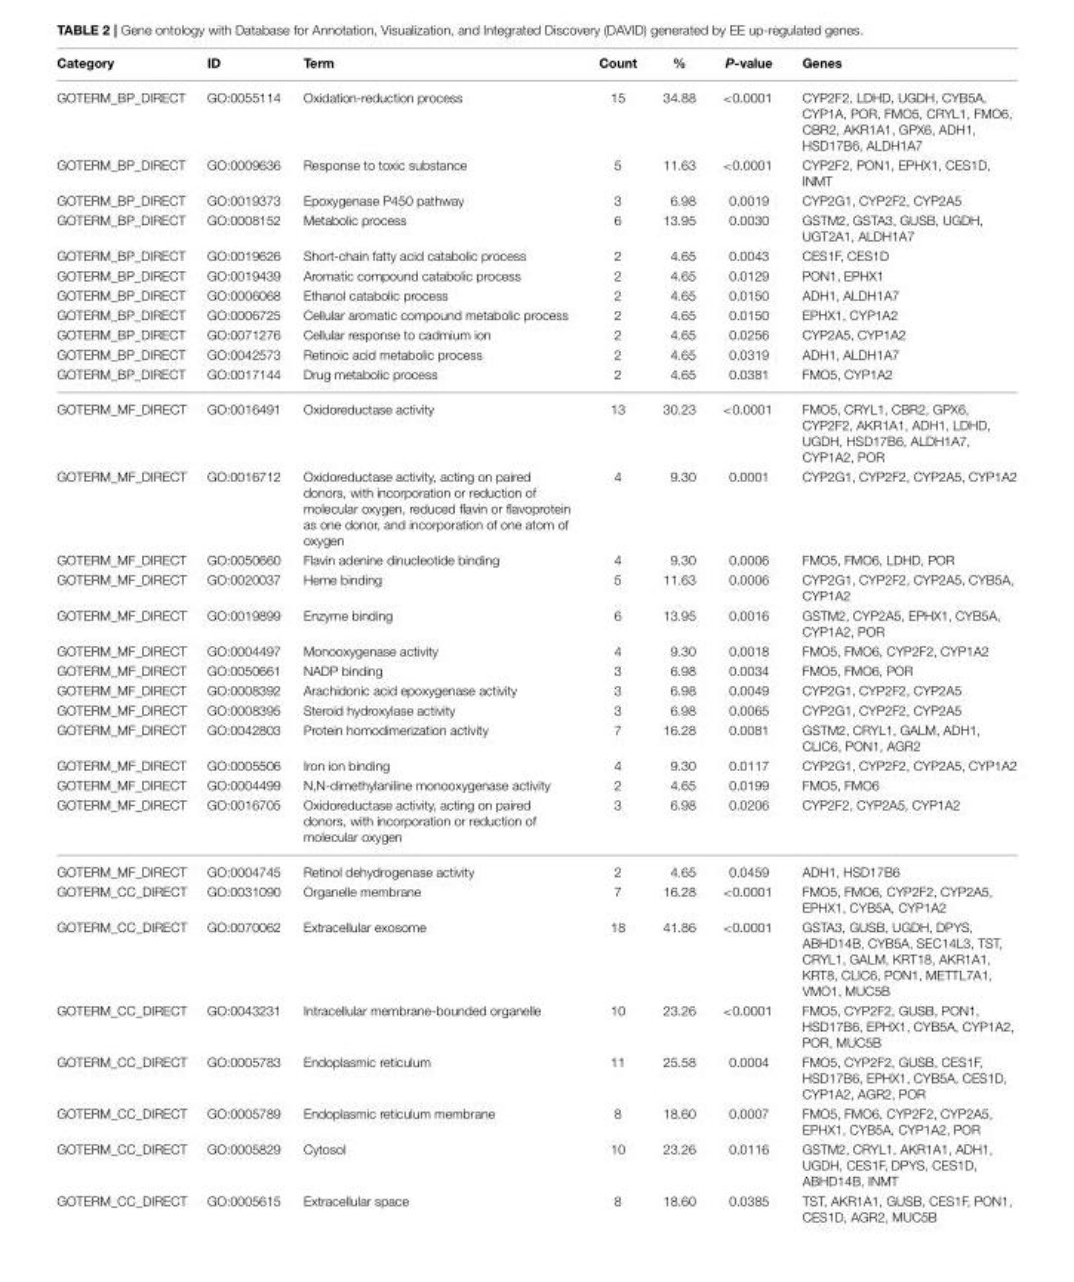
<table><thead><tr><td>Category</td><td>ID</td><td>Term</td><td>Count</td><td>%</td><td>P-value</td><td>Genes</td></tr></thead><tbody><tr><td>GOTERM_BP_DIRECT</td><td>GO:0055114</td><td>Oxidation-reduction process</td><td>15</td><td>34.88</td><td>&lt;0.0001</td><td>CYP2F2, LDHD, UGDH, CYB5A, CYP1A, POR, FMO5, CRYL1, FMO6, CBR2, AKR1A1, GPX6, ADH1, HSD17B6, ALDH1A7</td></tr><tr><td>GOTERM_BP_DIRECT</td><td>GO:0009636</td><td>Response to toxic substance</td><td>5</td><td>11.63</td><td>&lt;0.0001</td><td>CYP2F2, PON1, EPHX1, CES1D, INMT</td></tr><tr><td>GOTERM_BP_DIRECT</td><td>GO:0019373</td><td>Epoxygenase P450 pathway</td><td>3</td><td>6.98</td><td>0.0019</td><td>CYP2G1, CYP2F2, CYP2A5</td></tr><tr><td>GOTERM_BP_DIRECT</td><td>GO:0008152</td><td>Metabolic process</td><td>6</td><td>13.95</td><td>0.0030</td><td>GSTM2, GSTA3, GUSB, UGDH, UGT2A1, ALDH1A7</td></tr><tr><td>GOTERM_BP_DIRECT</td><td>GO:0019626</td><td>Short-chain fatty acid catabolic process</td><td>2</td><td>4.65</td><td>0.0043</td><td>CES1F, CES1D</td></tr><tr><td>GOTERM_BP_DIRECT</td><td>GO:0019439</td><td>Aromatic compound catabolic process</td><td>2</td><td>4.65</td><td>0.0129</td><td>PON1, EPHX1</td></tr><tr><td>GOTERM_BP_DIRECT</td><td>GO:0006068</td><td>Ethanol catabolic process</td><td>2</td><td>4.65</td><td>0.0150</td><td>ADH1, ALDH1A7</td></tr><tr><td>GOTERM_BP_DIRECT</td><td>GO:0006725</td><td>Cellular aromatic compound metabolic process</td><td>2</td><td>4.65</td><td>0.0150</td><td>EPHX1, CYP1A2</td></tr><tr><td>GOTERM_BP_DIRECT</td><td>GO:0071276</td><td>Cellular response to cadmium ion</td><td>2</td><td>4.65</td><td>0.0256</td><td>CYP2A5, CYP1A2</td></tr><tr><td>GOTERM_BP_DIRECT</td><td>GO:0042573</td><td>Retinoic acid metabolic process</td><td>2</td><td>4.65</td><td>0.0319</td><td>ADH1, ALDH1A7</td></tr><tr><td>GOTERM_BP_DIRECT</td><td>GO:0017144</td><td>Drug metabolic process</td><td>2</td><td>4.65</td><td>0.0381</td><td>FMO5, CYP1A2</td></tr><tr><td>GOTERM_MF_DIRECT</td><td>GO:0016491</td><td>Oxidoreductase activity</td><td>13</td><td>30.23</td><td>&lt;0.0001</td><td>FMO5, CRYL1, CBR2, GPX6, CYP2F2, AKR1A1, ADH1, LDHD, UGDH, HSD17B6, ALDH1A7, CYP1A2, POR</td></tr><tr><td>GOTERM_MF_DIRECT</td><td>GO:0016712</td><td>Oxidoreductase activity, acting on paired donors, with incorporation or reduction of molecular oxygen, reduced flavin or flavoprotein as one donor, and incorporation of one atom of oxygen</td><td>4</td><td>9.30</td><td>0.0001</td><td>CYP2G1, CYP2F2, CYP2A5, CYP1A2</td></tr><tr><td>GOTERM_MF_DIRECT</td><td>GO:0050660</td><td>Flavin adenine dinucleotide binding</td><td>4</td><td>9.30</td><td>0.0006</td><td>FMO5, FMO6, LDHD, POR</td></tr><tr><td>GOTERM_MF_DIRECT</td><td>GO:0020037</td><td>Heme binding</td><td>5</td><td>11.63</td><td>0.0006</td><td>CYP2G1, CYP2F2, CYP2A5, CYB5A, CYP1A2</td></tr><tr><td>GOTERM_MF_DIRECT</td><td>GO:0019899</td><td>Enzyme binding</td><td>6</td><td>13.95</td><td>0.0016</td><td>GSTM2, CYP2A5, EPHX1, CYB5A, CYP1A2, POR</td></tr><tr><td>GOTERM_MF_DIRECT</td><td>GO:0004497</td><td>Monooxygenase activity</td><td>4</td><td>9.30</td><td>0.0018</td><td>FMO5, FMO6, CYP2F2, CYP1A2</td></tr><tr><td>GOTERM_MF_DIRECT</td><td>GO:0050661</td><td>NADP binding</td><td>3</td><td>6.98</td><td>0.0034</td><td>FMO5, FMO6, POR</td></tr><tr><td>GOTERM_MF_DIRECT</td><td>GO:0008392</td><td>Arachidonic acid epoxygenase activity</td><td>3</td><td>6.98</td><td>0.0049</td><td>CYP2G1, CYP2F2, CYP2A5</td></tr><tr><td>GOTERM_MF_DIRECT</td><td>GO:0008395</td><td>Steroid hydroxylase activity</td><td>3</td><td>6.98</td><td>0.0065</td><td>CYP2G1, CYP2F2, CYP2A5</td></tr><tr><td>GOTERM_MF_DIRECT</td><td>GO:0042803</td><td>Protein homodimerization activity</td><td>7</td><td>16.28</td><td>0.0081</td><td>GSTM2, CRYL1, GALM, ADH1, CLIC6, PON1, AGR2</td></tr><tr><td>GOTERM_MF_DIRECT</td><td>GO:0005506</td><td>Iron ion binding</td><td>4</td><td>9.30</td><td>0.0117</td><td>CYP2G1, CYP2F2, CYP2A5, CYP1A2</td></tr><tr><td>GOTERM_MF_DIRECT</td><td>GO:0004499</td><td>N,N-dimethylaniline monooxygenase activity</td><td>2</td><td>4.65</td><td>0.0199</td><td>FMO5, FMO6</td></tr><tr><td>GOTERM_MF_DIRECT</td><td>GO:0016705</td><td>Oxidoreductase activity, acting on paired donors, with incorporation or reduction of molecular oxygen</td><td>3</td><td>6.98</td><td>0.0206</td><td>CYP2F2, CYP2A5, CYP1A2</td></tr><tr><td>GOTERM_MF_DIRECT</td><td>GO:0004745</td><td>Retinol dehydrogenase activity</td><td>2</td><td>4.65</td><td>0.0459</td><td>ADH1, HSD17B6</td></tr><tr><td>GOTERM_CC_DIRECT</td><td>GO:0031090</td><td>Organelle membrane</td><td>7</td><td>16.28</td><td>&lt;0.0001</td><td>FMO5, FMO6, CYP2F2, CYP2A5, EPHX1, CYB5A, CYP1A2</td></tr><tr><td>GOTERM_CC_DIRECT</td><td>GO:0070062</td><td>Extracellular exosome</td><td>18</td><td>41.86</td><td>&lt;0.0001</td><td>GSTA3, GUSB, UGDH, DPYS, ABHD14B, CYB5A, SEC14L3, TST, CRYL1, GALM, KRT18, AKR1A1, KRT8, CLIC6, PON1, METTL7A1, VMO1, MUC5B</td></tr><tr><td>GOTERM_CC_DIRECT</td><td>GO:0043231</td><td>Intracellular membrane-bounded organelle</td><td>10</td><td>23.26</td><td>&lt;0.0001</td><td>FMO5, CYP2F2, GUSB, PON1, HSD17B6, EPHX1, CYB5A, CYP1A2, POR, MUC5B</td></tr><tr><td>GOTERM_CC_DIRECT</td><td>GO:0005783</td><td>Endoplasmic reticulum</td><td>11</td><td>25.58</td><td>0.0004</td><td>FMO5, CYP2F2, GUSB, CES1F, HSD17B6, EPHX1, CYB5A, CES1D, CYP1A2, AGR2, POR</td></tr><tr><td>GOTERM_CC_DIRECT</td><td>GO:0005789</td><td>Endoplasmic reticulum membrane</td><td>8</td><td>18.60</td><td>0.0007</td><td>FMO5, FMO6, CYP2F2, CYP2A5, EPHX1, CYB5A, CYP1A2, POR</td></tr><tr><td>GOTERM_CC_DIRECT</td><td>GO:0005829</td><td>Cytosol</td><td>10</td><td>23.26</td><td>0.0116</td><td>GSTM2, CRYL1, AKR1A1, ADH1, UGDH, CES1F, DPYS, CES1D, ABHD14B, INMT</td></tr><tr><td>GOTERM_CC_DIRECT</td><td>GO:0005615</td><td>Extracellular space</td><td>8</td><td>18.60</td><td>0.0385</td><td>TST, AKR1A1, GUSB, CES1F, PON1, CES1D, AGR2, MUC5B</td></tr></tbody></table>